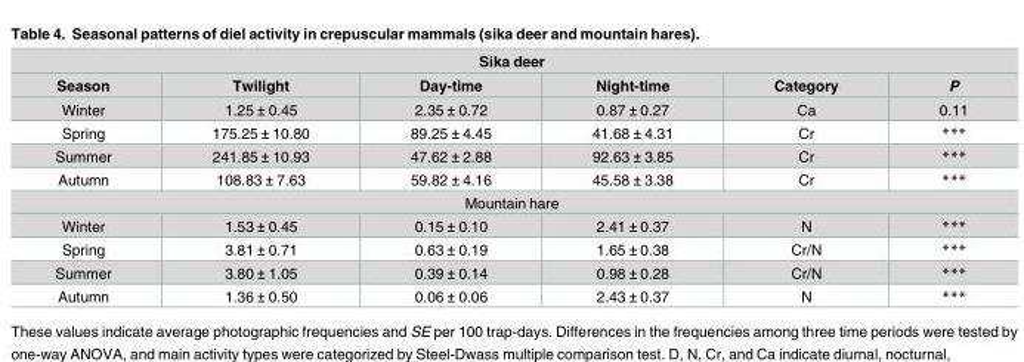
<table><thead><tr><td colspan="6">Sika deer</td></tr><tr><td>Season</td><td>Twilight</td><td>Day-time</td><td>Night-time</td><td>Category</td><td>P</td></tr></thead><tbody><tr><td>Winter</td><td>1.25 ± 0.45</td><td>2.35 ± 0.72</td><td>0.87 ± 0.27</td><td>Ca</td><td>0.11</td></tr><tr><td>Spring</td><td>175.25 ± 10.80</td><td>89.25 ± 4.45</td><td>41.68 ± 4.31</td><td>Cr</td><td>***</td></tr><tr><td>Summer</td><td>241.85 ± 10.93</td><td>47.62 ± 2.88</td><td>92.63 ± 3.85</td><td>Cr</td><td>***</td></tr><tr><td>Autumn</td><td>108.83 ± 7.63</td><td>59.82 ± 4.16</td><td>45.58 ± 3.38</td><td>Cr</td><td>***</td></tr><tr><td colspan="6">Mountain hare</td></tr><tr><td>Winter</td><td>1.53 ± 0.45</td><td>0.15 ± 0.10</td><td>2.41 ± 0.37</td><td>N</td><td>***</td></tr><tr><td>Spring</td><td>3.81 ± 0.71</td><td>0.63 ± 0.19</td><td>1.65 ± 0.38</td><td>Cr/N</td><td>***</td></tr><tr><td>Summer</td><td>3.80 ± 1.05</td><td>0.39 ± 0.14</td><td>0.98 ± 0.28</td><td>Cr/N</td><td>***</td></tr><tr><td>Autumn</td><td>1.36 ± 0.50</td><td>0.06 ± 0.06</td><td>2.43 ± 0.37</td><td>N</td><td>***</td></tr></tbody></table>